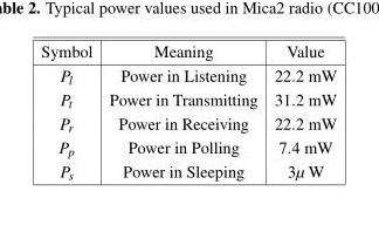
<table><thead><tr><td>Symbol</td><td>Meaning</td><td>Value</td></tr></thead><tbody><tr><td>P<sub>l</sub></td><td>Power in Listening</td><td>22.2 mW</td></tr><tr><td>P<sub>t</sub></td><td>Power in Transmitting</td><td>31.2 mW</td></tr><tr><td>P<sub>r</sub></td><td>Power in Receiving</td><td>22.2 mW</td></tr><tr><td>P<sub>p</sub></td><td>Power in Polling</td><td>7.4 mW</td></tr><tr><td>P<sub>s</sub></td><td>Power in Sleeping</td><td>3µ W</td></tr></tbody></table>